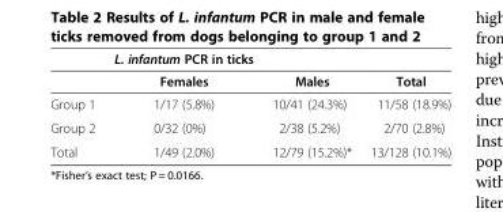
<table><thead><tr><td rowspan="2"></td><td rowspan="2">L. infantum PCR in ticks Females</td><td rowspan="2">Males</td><td rowspan="2">Total</td></tr><tr></tr></thead><tbody><tr><td>Group 1</td><td>1/17 (5.8%)</td><td>10/41 (24.3%)</td><td>11/58 (18.9%)</td></tr><tr><td>Group 2</td><td>0/32 (0%)</td><td>2/38 (5.2%)</td><td>2/70 (2.8%)</td></tr><tr><td>Total</td><td>1/49 (2.0%)</td><td>12/79 (15.2%)*</td><td>13/128 (10.1%)</td></tr></tbody></table>